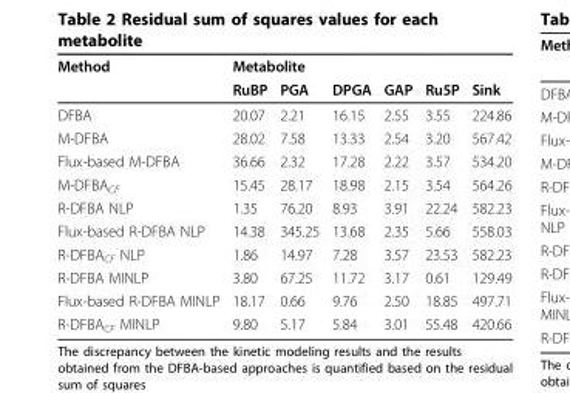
<table><thead><tr><td rowspan="2">Method</td><td colspan="2">Metabolite</td><td rowspan="2">DPGA</td><td rowspan="2">GAP</td><td rowspan="2">Ru5P</td><td rowspan="2">Sink</td></tr><tr><td>RuBP</td><td>PGA</td></tr></thead><tbody><tr><td>DFBA</td><td>20.07</td><td>2.21</td><td>16.15</td><td>2.55</td><td>3.55</td><td>224.86</td></tr><tr><td>M-DFBA</td><td>28.02</td><td>7.58</td><td>13.33</td><td>2.54</td><td>3.20</td><td>567.42</td></tr><tr><td>Flux-based M-DFBA</td><td>36.66</td><td>2.32</td><td>17.28</td><td>2.22</td><td>3.57</td><td>534.20</td></tr><tr><td>M-DFBA<sub>CF</sub></td><td>15.45</td><td>28.17</td><td>18.98</td><td>2.15</td><td>3.54</td><td>564.26</td></tr><tr><td>R-DFBA NLP</td><td>1.35</td><td>76.20</td><td>8.93</td><td>3.91</td><td>22.24</td><td>582.23</td></tr><tr><td>Flux-based R-DFBA NLP</td><td>14.38</td><td>345.25</td><td>13.68</td><td>2.35</td><td>5.66</td><td>558.03</td></tr><tr><td>R-DFBA<sub>CF</sub> NLP</td><td>1.86</td><td>14.97</td><td>7.28</td><td>3.57</td><td>23.53</td><td>582.23</td></tr><tr><td>R-DFBA MINLP</td><td>3.80</td><td>67.25</td><td>11.72</td><td>3.17</td><td>0.61</td><td>129.49</td></tr><tr><td>Flux-based R-DFBA MINLP</td><td>18.17</td><td>0.66</td><td>9.76</td><td>2.50</td><td>18.85</td><td>497.71</td></tr><tr><td>R-DFBA<sub>CF</sub> MINLP</td><td>9.80</td><td>5.17</td><td>5.84</td><td>3.01</td><td>55.48</td><td>420.66</td></tr></tbody></table>